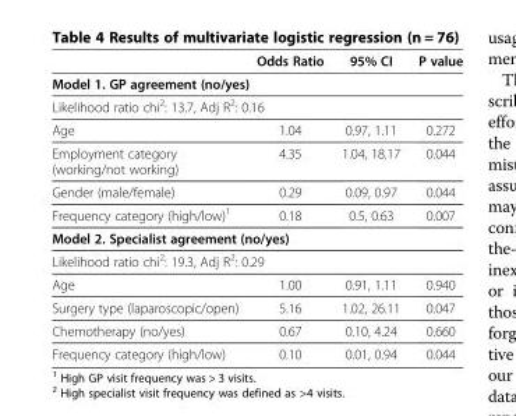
<table><thead><tr><td></td><td>Odds Ratio</td><td>95% CI</td><td>P value</td></tr></thead><tbody><tr><td colspan="4">Model 1. GP agreement (no/yes)</td></tr><tr><td colspan="4">Likelihood ratio chi<sup>2</sup>: 13.7, Adj R<sup>2</sup>: 0.16</td></tr><tr><td>Age</td><td>1.04</td><td>0.97, 1.11</td><td>0.272</td></tr><tr><td>Employment category (working/not working)</td><td>4.35</td><td>1.04, 18.17</td><td>0.044</td></tr><tr><td>Gender (male/female)</td><td>0.29</td><td>0.09, 0.97</td><td>0.044</td></tr><tr><td>Frequency category (high/low)<sup>1</sup></td><td>0.18</td><td>0.5, 0.63</td><td>0.007</td></tr><tr><td colspan="4">Model 2. Specialist agreement (no/yes)</td></tr><tr><td colspan="4">Likelihood ratio chi<sup>2</sup>: 19.3, Adj R<sup>2</sup>: 0.29</td></tr><tr><td>Age</td><td>1.00</td><td>0.91, 1.11</td><td>0.940</td></tr><tr><td>Surgery type (laparoscopic/open)</td><td>5.16</td><td>1.02, 26.11</td><td>0.047</td></tr><tr><td>Chemotherapy (no/yes)</td><td>0.67</td><td>0.10, 4.24</td><td>0.660</td></tr><tr><td>Frequency category (high/low)</td><td>0.10</td><td>0.01, 0.94</td><td>0.044</td></tr></tbody></table>